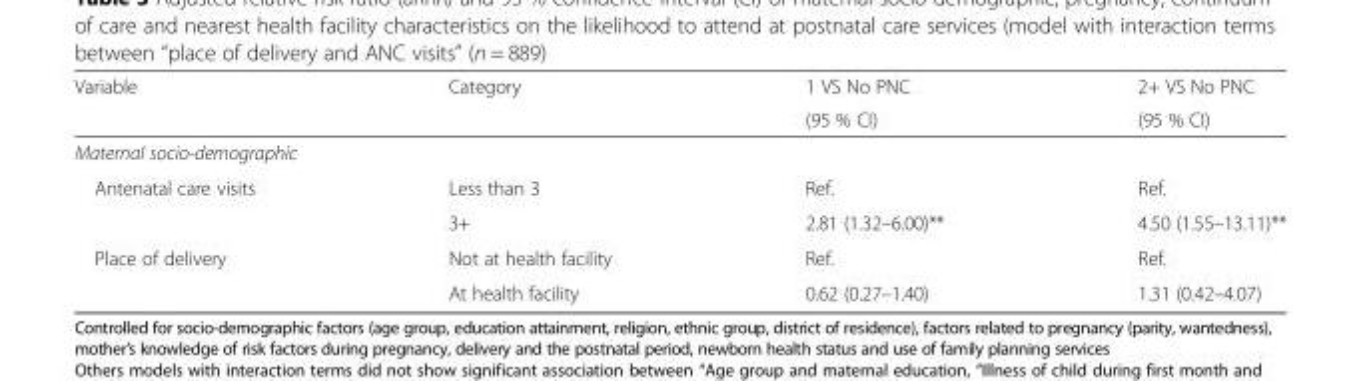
<table><thead><tr><td rowspan="2">Variable</td><td rowspan="2">Category</td><td rowspan="2">1 VS No PNC (95 % CI)</td><td rowspan="2">2+ VS No PNC (95 % CI)</td></tr><tr></tr></thead><tbody><tr><td colspan="4">Maternal socio-demographic</td></tr><tr><td rowspan="2">Antenatal care visits</td><td>Less than 3</td><td>Ref.</td><td>Ref.</td></tr><tr><td>3+</td><td>2.81 (1.32–6.00)**</td><td>4.50 (1.55–13.11)**</td></tr><tr><td rowspan="2">Place of delivery</td><td>Not at health facility</td><td>Ref.</td><td>Ref.</td></tr><tr><td>At health facility</td><td>0.62 (0.27–1.40)</td><td>1.31 (0.42–4.07)</td></tr></tbody></table>